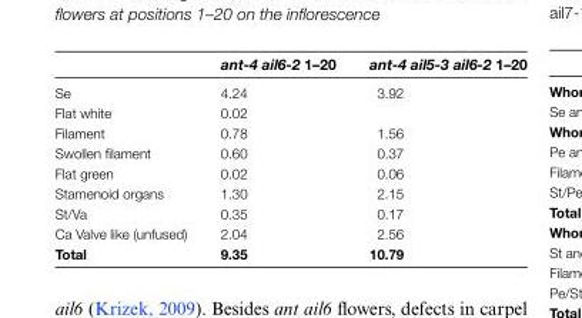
<table><thead><tr><td></td><td>ant-4 ail6-2 1–20</td><td>ant-4 ail5-3 ail6-2 1–20</td></tr></thead><tbody><tr><td>Se</td><td>4.24</td><td>3.92</td></tr><tr><td>Flat white</td><td>0.02</td><td></td></tr><tr><td>Filament</td><td>0.78</td><td>1.56</td></tr><tr><td>Swollen filament</td><td>0.60</td><td>0.37</td></tr><tr><td>Flat green</td><td>0.02</td><td>0.06</td></tr><tr><td>Stamenoid organs</td><td>1.30</td><td>2.15</td></tr><tr><td>St/Va</td><td>0.35</td><td>0.17</td></tr><tr><td>Ca Valve like (unfused)</td><td>2.04</td><td>2.56</td></tr><tr><td>Total</td><td>9.35</td><td>10.79</td></tr></tbody></table>